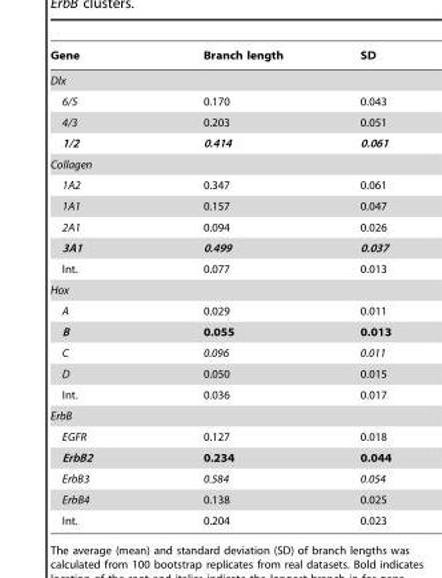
<table><thead><tr><td>Gene</td><td>Branch length</td><td>SD</td></tr></thead><tbody><tr><td colspan="3">Dlx</td></tr><tr><td>6/5</td><td>0.170</td><td>0.043</td></tr><tr><td>4/3</td><td>0.203</td><td>0.051</td></tr><tr><td>1/2</td><td>0.414</td><td>0.061</td></tr><tr><td colspan="3">Collagen</td></tr><tr><td>1A2</td><td>0.347</td><td>0.061</td></tr><tr><td>1A1</td><td>0.157</td><td>0.047</td></tr><tr><td>2A1</td><td>0.094</td><td>0.026</td></tr><tr><td>3A1</td><td>0.499</td><td>0.037</td></tr><tr><td>Int.</td><td>0.077</td><td>0.013</td></tr><tr><td colspan="3">Hox</td></tr><tr><td>A</td><td>0.029</td><td>0.011</td></tr><tr><td>B</td><td>0.055</td><td>0.013</td></tr><tr><td>C</td><td>0.096</td><td>0.011</td></tr><tr><td>D</td><td>0.050</td><td>0.015</td></tr><tr><td>Int.</td><td>0.036</td><td>0.017</td></tr><tr><td colspan="3">ErbB</td></tr><tr><td>EGFR</td><td>0.127</td><td>0.018</td></tr><tr><td>ErbB2</td><td>0.234</td><td>0.044</td></tr><tr><td>ErbB3</td><td>0.584</td><td>0.054</td></tr><tr><td>ErbB4</td><td>0.138</td><td>0.025</td></tr><tr><td>Int.</td><td>0.204</td><td>0.023</td></tr></tbody></table>